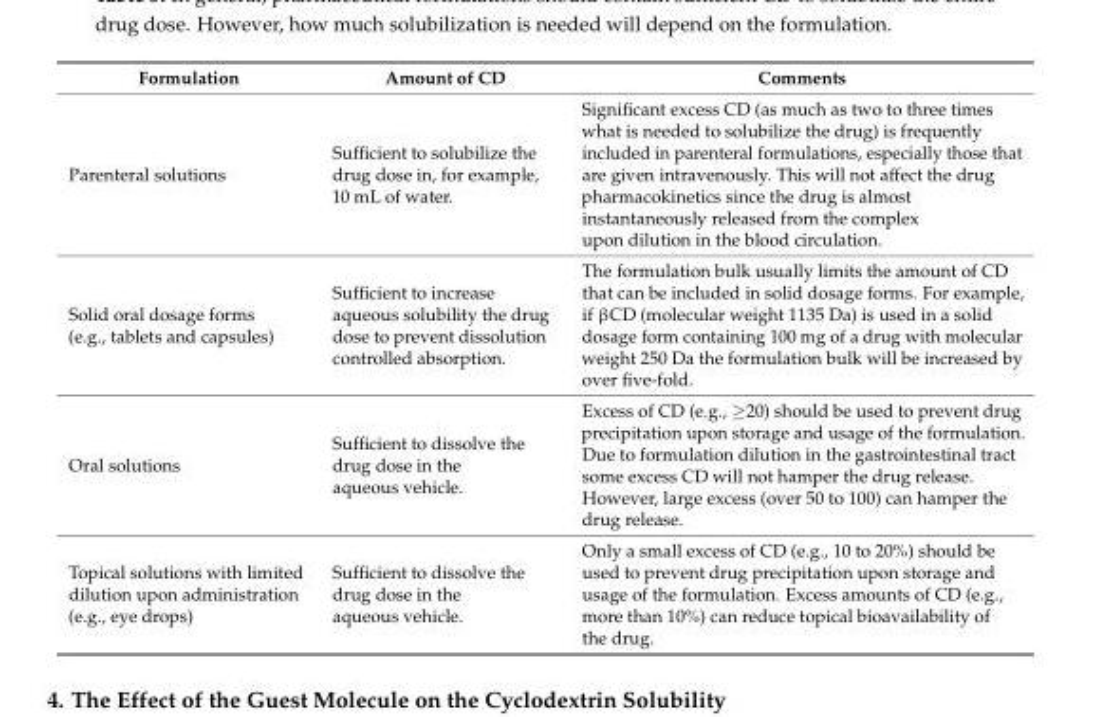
<table><thead><tr><td>Formulation</td><td>Amount of CD</td><td>Comments</td></tr></thead><tbody><tr><td>Parenteral solutions</td><td>Sufficient to solubilize the drug dose in, for example, 10 mL of water.</td><td>Significant excess CD (as much as two to three times what is needed to solubilize the drug) is frequently included in parenteral formulations, especially those that are given intravenously. This will not affect the drug pharmacokinetics since the drug is almost instantaneously released from the complex upon dilution in the blood circulation.</td></tr><tr><td>Solid oral dosage forms (e.g., tablets and capsules)</td><td>Sufficient to increase aqueous solubility the drug dose to prevent dissolution controlled absorption.</td><td>The formulation bulk usually limits the amount of CD that can be included in solid dosage forms. For example, if βCD (molecular weight 1135 Da) is used in a solid dosage form containing 100 mg of a drug with molecular weight 250 Da the formulation bulk will be increased by over five-fold.</td></tr><tr><td>Oral solutions</td><td>Sufficient to dissolve the drug dose in the aqueous vehicle.</td><td>Excess of CD (e.g., ≥20) should be used to prevent drug precipitation upon storage and usage of the formulation. Due to formulation dilution in the gastrointestinal tract some excess CD will not hamper the drug release. However, large excess (over 50 to 100) can hamper the drug release.</td></tr><tr><td>Topical solutions with limited dilution upon administration (e.g., eye drops)</td><td>Sufficient to dissolve the drug dose in the aqueous vehicle.</td><td>Only a small excess of CD (e.g., 10 to 20%) should be used to prevent drug precipitation upon storage and usage of the formulation. Excess amounts of CD (e.g., more than 10%) can reduce topical bioavailability of the drug.</td></tr></tbody></table>